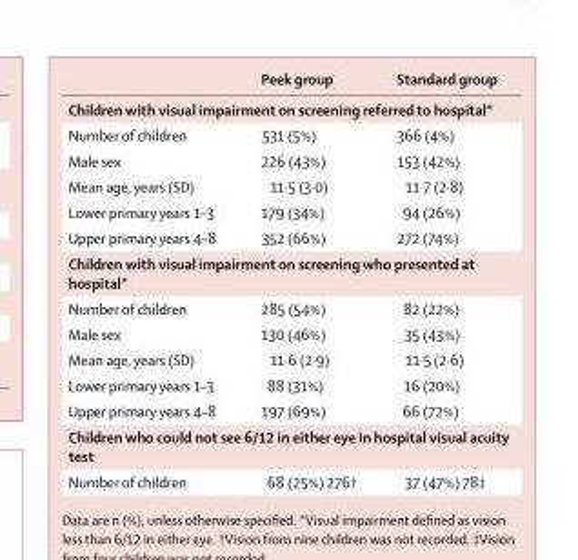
<table><thead><tr><td></td><td>Peek group</td><td>Standard group</td></tr></thead><tbody><tr><td colspan="3">Children with visual impairment on screening referred to hospital*</td></tr><tr><td>Number of children</td><td>531 (5%)</td><td>366 (4%)</td></tr><tr><td>Male sex</td><td>226 (43%)</td><td>153 (42%)</td></tr><tr><td>Mean age, years (SD)</td><td>11·5 (3·0)</td><td>11·7 (2·8)</td></tr><tr><td>Lower primary years 1–3</td><td>179 (34%)</td><td>94 (26%)</td></tr><tr><td>Upper primary years 4–8</td><td>352 (66%)</td><td>272 (74%)</td></tr><tr><td colspan="3">Children with visual impairment on screening who presented at hospital*</td></tr><tr><td>Number of children</td><td>285 (54%)</td><td>82 (22%)</td></tr><tr><td>Male sex</td><td>130 (46%)</td><td>35 (43%)</td></tr><tr><td>Mean age, years (SD)</td><td>11·6 (2·9)</td><td>11·5 (2·6)</td></tr><tr><td>Lower primary years 1–3</td><td>88 (31%)</td><td>16 (20%)</td></tr><tr><td>Upper primary years 4–8</td><td>197 (69%)</td><td>66 (72%)</td></tr><tr><td colspan="3">Children who could not see 6/12 in either eye in hospital visual acuity test</td></tr><tr><td>Number of children</td><td>68 (25%) 276†</td><td>37 (47%) 78‡</td></tr></tbody></table>